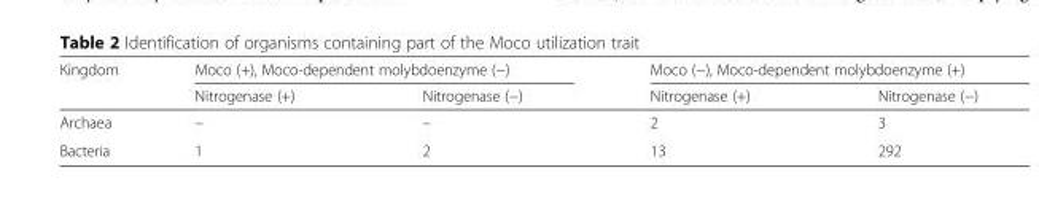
<table><thead><tr><td rowspan="2">Kingdom</td><td colspan="2">Moco (+), Moco-dependent molybdoenzyme (−)</td><td colspan="2">Moco (−), Moco-dependent molybdoenzyme (+)</td></tr><tr><td>Nitrogenase (+)</td><td>Nitrogenase (−)</td><td>Nitrogenase (+)</td><td>Nitrogenase (−)</td></tr></thead><tbody><tr><td>Archaea</td><td>–</td><td>–</td><td>2</td><td>3</td></tr><tr><td>Bacteria</td><td>1</td><td>2</td><td>13</td><td>292</td></tr></tbody></table>